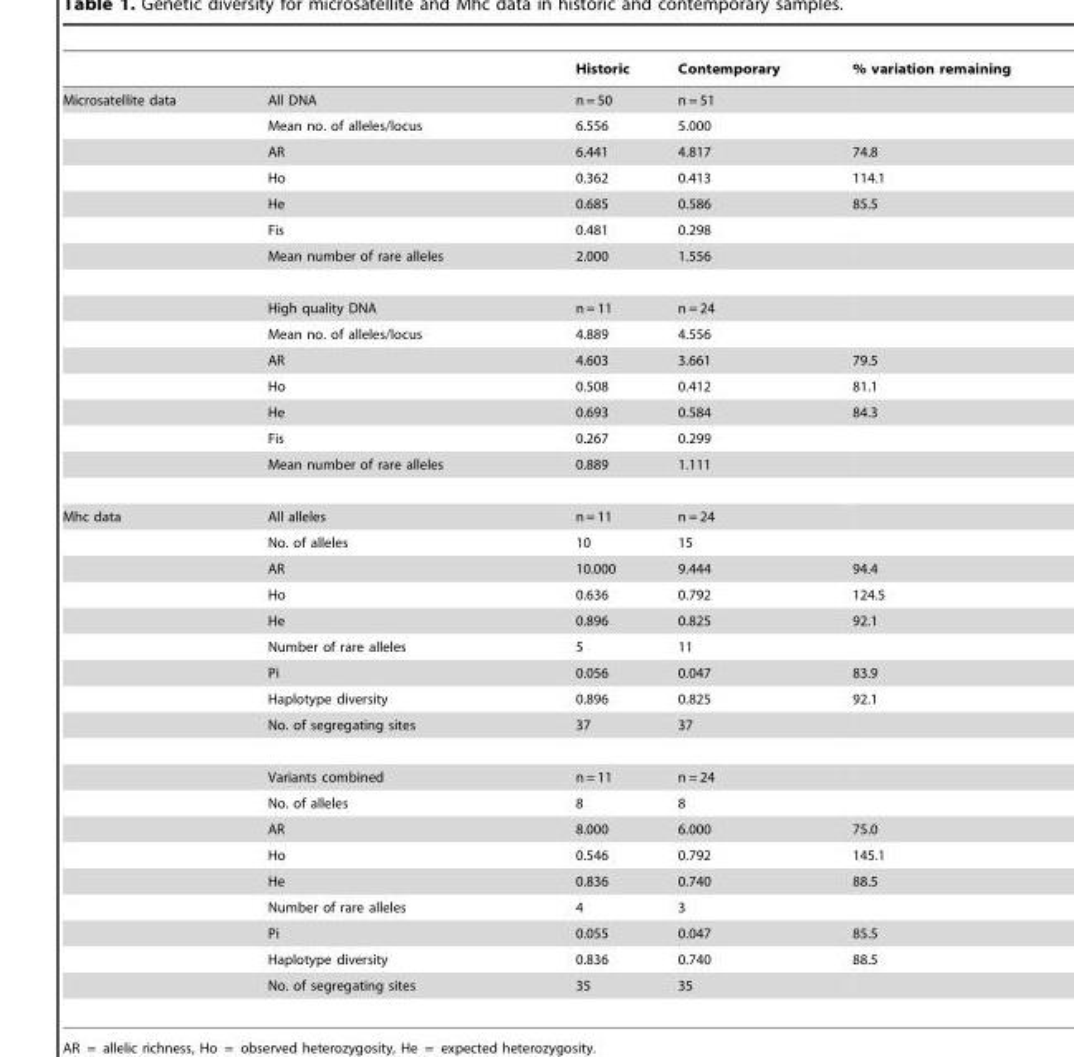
<table><thead><tr><td></td><td></td><td>Historic</td><td>Contemporary</td><td>% variation remaining</td></tr></thead><tbody><tr><td rowspan="14">Microsatellite data</td><td>All DNA</td><td>n = 50</td><td>n = 51</td><td></td></tr><tr><td>Mean no. of alleles/locus</td><td>6.556</td><td>5.000</td><td></td></tr><tr><td>AR</td><td>6.441</td><td>4.817</td><td>74.8</td></tr><tr><td>Ho</td><td>0.362</td><td>0.413</td><td>114.1</td></tr><tr><td>He</td><td>0.685</td><td>0.586</td><td>85.5</td></tr><tr><td>Fis</td><td>0.481</td><td>0.298</td><td></td></tr><tr><td>Mean number of rare alleles</td><td>2.000</td><td>1.556</td><td></td></tr><tr><td>High quality DNA</td><td>n = 11</td><td>n = 24</td><td></td></tr><tr><td>Mean no. of alleles/locus</td><td>4.889</td><td>4.556</td><td></td></tr><tr><td>AR</td><td>4.603</td><td>3.661</td><td>79.5</td></tr><tr><td>Ho</td><td>0.508</td><td>0.412</td><td>81.1</td></tr><tr><td>He</td><td>0.693</td><td>0.584</td><td>84.3</td></tr><tr><td>Fis</td><td>0.267</td><td>0.299</td><td></td></tr><tr><td>Mean number of rare alleles</td><td>0.889</td><td>1.111</td><td></td></tr><tr><td rowspan="18">Mhc data</td><td>All alleles</td><td>n = 11</td><td>n = 24</td><td></td></tr><tr><td>No. of alleles</td><td>10</td><td>15</td><td></td></tr><tr><td>AR</td><td>10.000</td><td>9.444</td><td>94.4</td></tr><tr><td>Ho</td><td>0.636</td><td>0.792</td><td>124.5</td></tr><tr><td>He</td><td>0.896</td><td>0.825</td><td>92.1</td></tr><tr><td>Number of rare alleles</td><td>5</td><td>11</td><td></td></tr><tr><td>Pi</td><td>0.056</td><td>0.047</td><td>83.9</td></tr><tr><td>Haplotype diversity</td><td>0.896</td><td>0.825</td><td>92.1</td></tr><tr><td>No. of segregating sites</td><td>37</td><td>37</td><td></td></tr><tr><td>Variants combined</td><td>n = 11</td><td>n = 24</td><td></td></tr><tr><td>No. of alleles</td><td>8</td><td>8</td><td></td></tr><tr><td>AR</td><td>8.000</td><td>6.000</td><td>75.0</td></tr><tr><td>Ho</td><td>0.546</td><td>0.792</td><td>145.1</td></tr><tr><td>He</td><td>0.836</td><td>0.740</td><td>88.5</td></tr><tr><td>Number of rare alleles</td><td>4</td><td>3</td><td></td></tr><tr><td>Pi</td><td>0.055</td><td>0.047</td><td>85.5</td></tr><tr><td>Haplotype diversity</td><td>0.836</td><td>0.740</td><td>88.5</td></tr><tr><td>No. of segregating sites</td><td>35</td><td>35</td><td></td></tr></tbody></table>